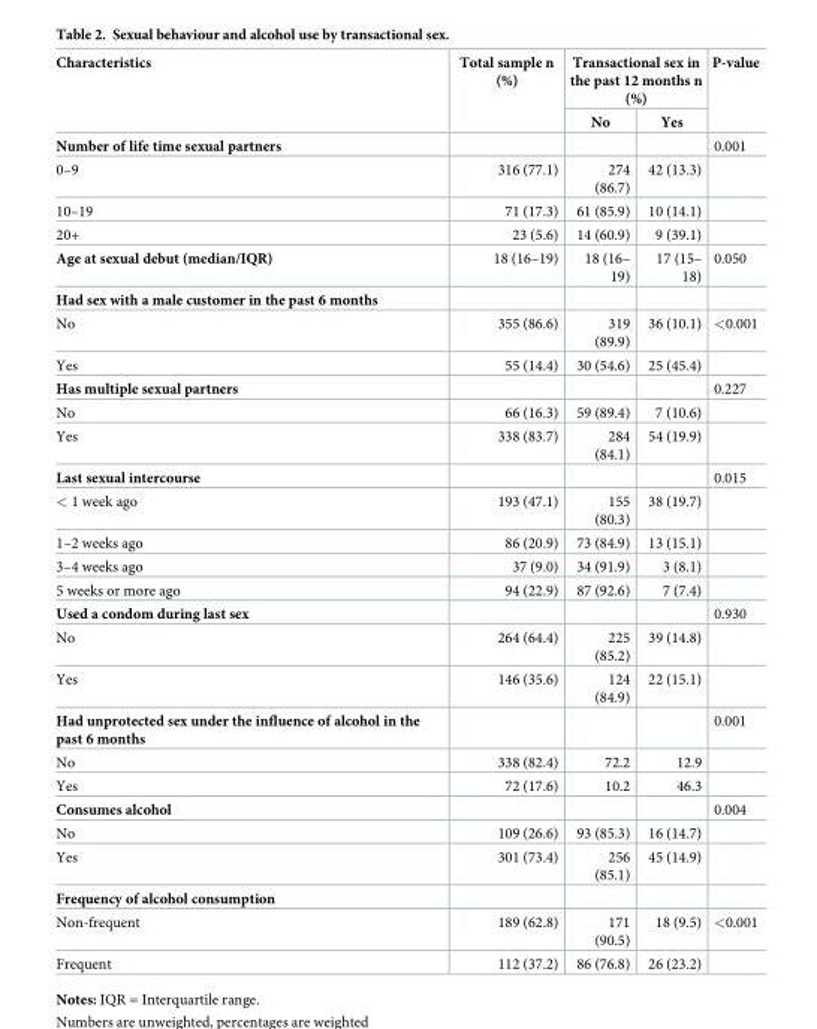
<table><thead><tr><td rowspan="2">Characteristics</td><td rowspan="2">Total sample n (%)</td><td colspan="2">Transactional sex in the past 12 months n (%)</td><td rowspan="2">P-value</td></tr><tr><td>No</td><td>Yes</td></tr></thead><tbody><tr><td>Number of life time sexual partners</td><td></td><td></td><td></td><td>0.001</td></tr><tr><td>0–9</td><td>316 (77.1)</td><td>274 (86.7)</td><td>42 (13.3)</td><td></td></tr><tr><td>10–19</td><td>71 (17.3)</td><td>61 (85.9)</td><td>10 (14.1)</td><td></td></tr><tr><td>20+</td><td>23 (5.6)</td><td>14 (60.9)</td><td>9 (39.1)</td><td></td></tr><tr><td>Age at sexual debut (median/IQR)</td><td>18 (16–19)</td><td>18 (16– 19)</td><td>17 (15– 18)</td><td>0.050</td></tr><tr><td colspan="5">Had sex with a male customer in the past 6 months</td></tr><tr><td>No</td><td>355 (86.6)</td><td>319 (89.9)</td><td>36 (10.1)</td><td>&lt;0.001</td></tr><tr><td>Yes</td><td>55 (14.4)</td><td>30 (54.6)</td><td>25 (45.4)</td><td></td></tr><tr><td>Has multiple sexual partners</td><td></td><td></td><td></td><td>0.227</td></tr><tr><td>No</td><td>66 (16.3)</td><td>59 (89.4)</td><td>7 (10.6)</td><td></td></tr><tr><td>Yes</td><td>338 (83.7)</td><td>284 (84.1)</td><td>54 (19.9)</td><td></td></tr><tr><td>Last sexual intercourse</td><td></td><td></td><td></td><td>0.015</td></tr><tr><td>&lt; 1 week ago</td><td>193 (47.1)</td><td>155 (80.3)</td><td>38 (19.7)</td><td></td></tr><tr><td>1–2 weeks ago</td><td>86 (20.9)</td><td>73 (84.9)</td><td>13 (15.1)</td><td></td></tr><tr><td>3–4 weeks ago</td><td>37 (9.0)</td><td>34 (91.9)</td><td>3 (8.1)</td><td></td></tr><tr><td>5 weeks or more ago</td><td>94 (22.9)</td><td>87 (92.6)</td><td>7 (7.4)</td><td></td></tr><tr><td>Used a condom during last sex</td><td></td><td></td><td></td><td>0.930</td></tr><tr><td>No</td><td>264 (64.4)</td><td>225 (85.2)</td><td>39 (14.8)</td><td></td></tr><tr><td>Yes</td><td>146 (35.6)</td><td>124 (84.9)</td><td>22 (15.1)</td><td></td></tr><tr><td>Had unprotected sex under the influence of alcohol in the past 6 months</td><td></td><td></td><td></td><td>0.001</td></tr><tr><td>No</td><td>338 (82.4)</td><td>72.2</td><td>12.9</td><td></td></tr><tr><td>Yes</td><td>72 (17.6)</td><td>10.2</td><td>46.3</td><td></td></tr><tr><td>Consumes alcohol</td><td></td><td></td><td></td><td>0.004</td></tr><tr><td>No</td><td>109 (26.6)</td><td>93 (85.3)</td><td>16 (14.7)</td><td></td></tr><tr><td>Yes</td><td>301 (73.4)</td><td>256 (85.1)</td><td>45 (14.9)</td><td></td></tr><tr><td colspan="5">Frequency of alcohol consumption</td></tr><tr><td>Non-frequent</td><td>189 (62.8)</td><td>171 (90.5)</td><td>18 (9.5)</td><td>&lt;0.001</td></tr><tr><td>Frequent</td><td>112 (37.2)</td><td>86 (76.8)</td><td>26 (23.2)</td><td></td></tr></tbody></table>